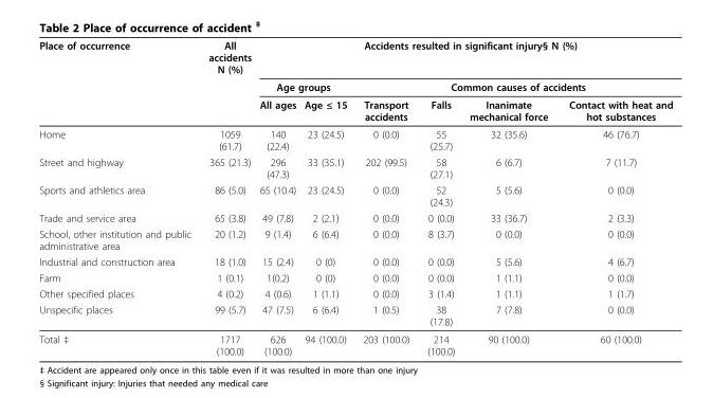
<table><thead><tr><td rowspan="3">Place of occurrence</td><td rowspan="3">All accidents N (%)</td><td colspan="6">Accidents resulted in significant injury§ N (%)</td></tr><tr><td colspan="2">Age groups</td><td colspan="4">Common causes of accidents</td></tr><tr><td>All ages</td><td>Age ≤ 15</td><td>Transport accidents</td><td>Falls</td><td>Inanimate mechanical force</td><td>Contact with heat and hot substances</td></tr></thead><tbody><tr><td>Home</td><td>1059 (61.7)</td><td>140 (22.4)</td><td>23 (24.5)</td><td>0 (0.0)</td><td>55 (25.7)</td><td>32 (35.6)</td><td>46 (76.7)</td></tr><tr><td>Street and highway</td><td>365 (21.3)</td><td>296 (47.3)</td><td>33 (35.1)</td><td>202 (99.5)</td><td>58 (27.1)</td><td>6 (6.7)</td><td>7 (11.7)</td></tr><tr><td>Sports and athletics area</td><td>86 (5.0)</td><td>65 (10.4)</td><td>23 (24.5)</td><td>0 (0.0)</td><td>52 (24.3)</td><td>5 (5.6)</td><td>0 (0.0)</td></tr><tr><td>Trade and service area</td><td>65 (3.8)</td><td>49 (7.8)</td><td>2 (2.1)</td><td>0 (0.0)</td><td>0 (0.0)</td><td>33 (36.7)</td><td>2 (3.3)</td></tr><tr><td>School, other institution and public administrative area</td><td>20 (1.2)</td><td>9 (1.4)</td><td>6 (6.4)</td><td>0 (0.0)</td><td>8 (3.7)</td><td>0 (0.0)</td><td>0 (0.0)</td></tr><tr><td>Industrial and construction area</td><td>18 (1.0)</td><td>15 (2.4)</td><td>0 (0)</td><td>0 (0.0)</td><td>0 (0.0)</td><td>5 (5.6)</td><td>4 (6.7)</td></tr><tr><td>Farm</td><td>1 (0.1)</td><td>1(0.2)</td><td>0 (0)</td><td>0 (0.0)</td><td>0 (0.0)</td><td>1 (1.1)</td><td>0 (0.0)</td></tr><tr><td>Other specified places</td><td>4 (0.2)</td><td>4 (0.6)</td><td>1 (1.1)</td><td>0 (0.0)</td><td>3 (1.4)</td><td>1 (1.1)</td><td>1 (1.7)</td></tr><tr><td>Unspecific places</td><td>99 (5.7)</td><td>47 (7.5)</td><td>6 (6.4)</td><td>1 (0.5)</td><td>38 (17.8)</td><td>7 (7.8)</td><td>0 (0.0)</td></tr><tr><td>Total ‡</td><td>1717 (100.0)</td><td>626 (100.0)</td><td>94 (100.0)</td><td>203 (100.0)</td><td>214 (100.0)</td><td>90 (100.0)</td><td>60 (100.0)</td></tr></tbody></table>